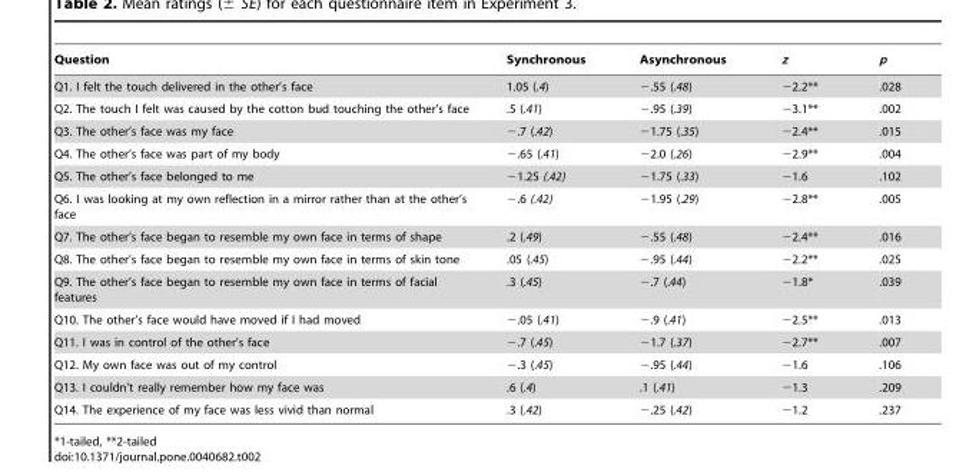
<table><thead><tr><td>Question</td><td>Synchronous</td><td>Asynchronous</td><td>z</td><td>p</td></tr></thead><tbody><tr><td>Q1. I felt the touch delivered in the other’s face</td><td>1.05 (.4)</td><td>−.55 (.48)</td><td>−2.2**</td><td>.028</td></tr><tr><td>Q2. The touch I felt was caused by the cotton bud touching the other’s face</td><td>.5 (.41)</td><td>−.95 (.39)</td><td>−3.1**</td><td>.002</td></tr><tr><td>Q3. The other’s face was my face</td><td>−.7 (.42)</td><td>−1.75 (.35)</td><td>−2.4**</td><td>.015</td></tr><tr><td>Q4. The other’s face was part of my body</td><td>−.65 (.41)</td><td>−2.0 (.26)</td><td>−2.9**</td><td>.004</td></tr><tr><td>Q5. The other’s face belonged to me</td><td>−1.25 (.42)</td><td>−1.75 (.33)</td><td>−1.6</td><td>.102</td></tr><tr><td>Q6. I was looking at my own reflection in a mirror rather than at the other’s face</td><td>−.6 (.42)</td><td>−1.95 (.29)</td><td>−2.8**</td><td>.005</td></tr><tr><td>Q7. The other’s face began to resemble my own face in terms of shape</td><td>.2 (.49)</td><td>−.55 (.48)</td><td>−2.4**</td><td>.016</td></tr><tr><td>Q8. The other’s face began to resemble my own face in terms of skin tone</td><td>.05 (.45)</td><td>−.95 (.44)</td><td>−2.2**</td><td>.025</td></tr><tr><td>Q9. The other’s face began to resemble my own face in terms of facial features</td><td>.3 (.45)</td><td>−.7 (.44)</td><td>−1.8*</td><td>.039</td></tr><tr><td>Q10. The other’s face would have moved if I had moved</td><td>−.05 (.41)</td><td>−.9 (.41)</td><td>−2.5**</td><td>.013</td></tr><tr><td>Q11. I was in control of the other’s face</td><td>−.7 (.45)</td><td>−1.7 (.37)</td><td>−2.7**</td><td>.007</td></tr><tr><td>Q12. My own face was out of my control</td><td>−.3 (.45)</td><td>−.95 (.44)</td><td>−1.6</td><td>.106</td></tr><tr><td>Q13. I couldn’t really remember how my face was</td><td>.6 (.4)</td><td>.1 (.41)</td><td>−1.3</td><td>.209</td></tr><tr><td>Q14. The experience of my face was less vivid than normal</td><td>.3 (.42)</td><td>−.25 (.42)</td><td>−1.2</td><td>.237</td></tr></tbody></table>